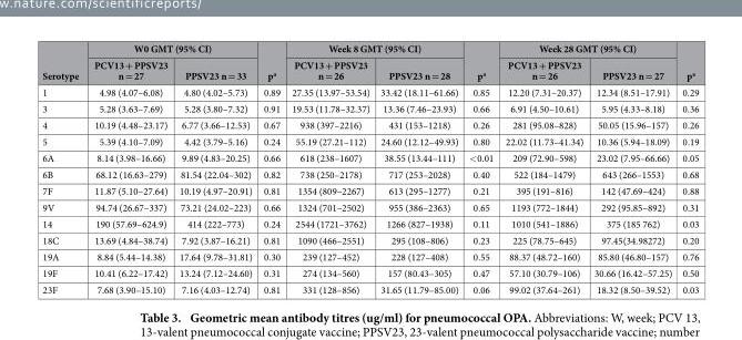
<table><thead><tr><td rowspan="2">Serotype</td><td colspan="2">W0 GMT (95% CI)</td><td rowspan="2">p<sup>a</sup></td><td colspan="2">Week 8 GMT (95% CI)</td><td rowspan="2">p<sup>a</sup></td><td colspan="2">Week 28 GMT (95% CI)</td><td rowspan="2">p<sup>a</sup></td></tr><tr><td>PCV13 + PPSV23 n = 27</td><td>PPSV23 n = 33</td><td>PCV13 + PPSV23 n = 26</td><td>PPSV23 n = 28</td><td>PCV13 + PPSV23 n = 26</td><td>PPSV23 n = 27</td></tr></thead><tbody><tr><td>1</td><td>4.98 (4.07–6.08)</td><td>4.80 (4.02–5.73)</td><td>0.89</td><td>27.35 (13.97–53.54)</td><td>33.42 (18.11–61.66)</td><td>0.85</td><td>12.20 (7.31–20.37)</td><td>12.34 (8.51–17.91)</td><td>0.29</td></tr><tr><td>3</td><td>5.28 (3.63–7.69)</td><td>5.28 (3.80–7.32)</td><td>0.91</td><td>19.53 (11.78–32.37)</td><td>13.36 (7.46–23.93)</td><td>0.66</td><td>6.91 (4.50–10.61)</td><td>5.95 (4.33–8.18)</td><td>0.36</td></tr><tr><td>4</td><td>10.19 (4.48–23.17)</td><td>6.77 (3.66–12.53)</td><td>0.67</td><td>938 (397–2216)</td><td>431 (153–1218)</td><td>0.26</td><td>281 (95.08–828)</td><td>50.05 (15.96–157)</td><td>0.26</td></tr><tr><td>5</td><td>5.39 (4.10–7.09)</td><td>4.42 (3.79–5.16)</td><td>0.24</td><td>55.19 (27.21–112)</td><td>24.60 (12.12–49.93)</td><td>0.80</td><td>22.02 (11.73–41.34)</td><td>10.36 (5.94–18.09)</td><td>0.19</td></tr><tr><td>6A</td><td>8.14 (3.98–16.66)</td><td>9.89 (4.83–20.25)</td><td>0.66</td><td>618 (238–1607)</td><td>38.55 (13.44–111)</td><td>&lt; 0.01</td><td>209 (72.90–598)</td><td>23.02 (7.95–66.66)</td><td>0.05</td></tr><tr><td>6B</td><td>68.12 (16.63–279)</td><td>81.54 (22.04–302)</td><td>0.82</td><td>738 (250–2178)</td><td>717 (253–2028)</td><td>0.40</td><td>522 (184–1479)</td><td>643 (266–1553)</td><td>0.68</td></tr><tr><td>7F</td><td>11.87 (5.10–27.64)</td><td>10.19 (4.97–20.91)</td><td>0.81</td><td>1354 (809–2267)</td><td>613 (295–1277)</td><td>0.21</td><td>395 (191–816)</td><td>142 (47.69–424)</td><td>0.88</td></tr><tr><td>9V</td><td>94.74 (26.67–337)</td><td>73.21 (24.02–223)</td><td>0.66</td><td>1324 (701–2502)</td><td>955 (386–2363)</td><td>0.65</td><td>1193 (772–1844)</td><td>292 (95.85–892)</td><td>0.31</td></tr><tr><td>14</td><td>190 (57.69–624.9)</td><td>414 (222–773)</td><td>0.24</td><td>2544 (1721–3762)</td><td>1266 (827–1938)</td><td>0.11</td><td>1010 (541–1886)</td><td>375 (185 762)</td><td>0.03</td></tr><tr><td>18C</td><td>13.69 (4.84–38.74)</td><td>7.92 (3.87–16.21)</td><td>0.81</td><td>1090 (466–2551)</td><td>295 (108–806)</td><td>0.23</td><td>225 (78.75–645)</td><td>97.45(34.98272)</td><td>0.20</td></tr><tr><td>19A</td><td>8.84 (5.44–14.38)</td><td>17.64 (9.78–31.81)</td><td>0.30</td><td>239 (127–452)</td><td>228 (127–408)</td><td>0.55</td><td>88.37 (48.72–160)</td><td>85.80 (46.80–157)</td><td>0.76</td></tr><tr><td>19F</td><td>10.41 (6.22–17.42)</td><td>13.24 (7.12–24.60)</td><td>0.31</td><td>274 (134–560)</td><td>157 (80.43–305)</td><td>0.47</td><td>57.10 (30.79–106)</td><td>30.66 (16.42–57.25)</td><td>0.50</td></tr><tr><td>23F</td><td>7.68 (3.90–15.10)</td><td>7.16 (4.03–12.74)</td><td>0.81</td><td>331 (128–856)</td><td>31.65 (11.79–85.00)</td><td>0.06</td><td>99.02 (37.64–261)</td><td>18.32 (8.50–39.52)</td><td>0.03</td></tr></tbody></table>